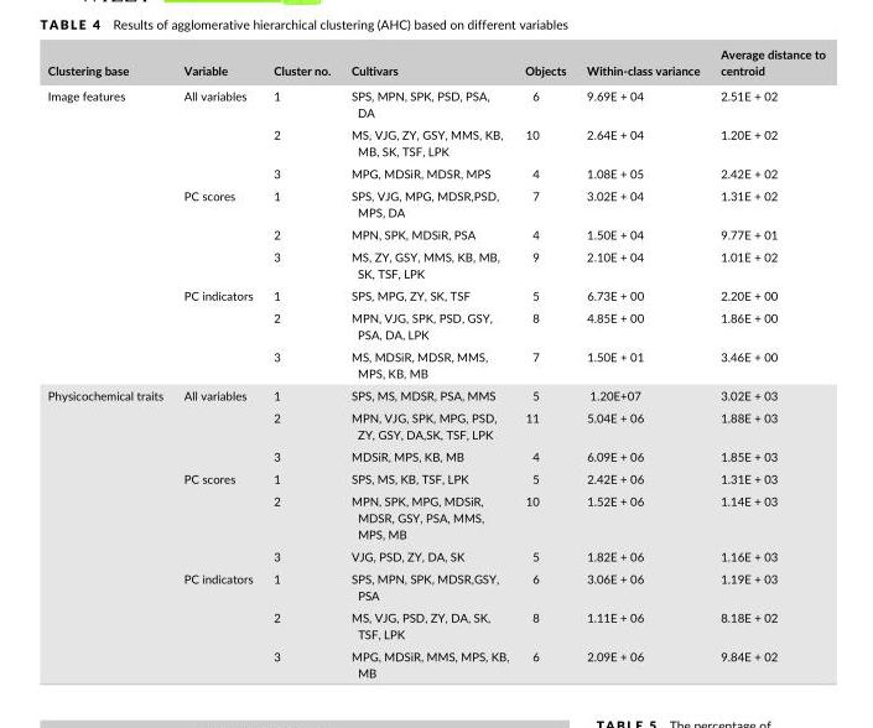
<table><thead><tr><td>Clustering base</td><td>Variable</td><td>Cluster no.</td><td>Cultivars</td><td>Objects</td><td>Within- class variance</td><td>Average distance to centroid</td></tr></thead><tbody><tr><td rowspan="9">Image features</td><td rowspan="3">All variables</td><td>1</td><td>SPS, MPN, SPK, PSD, PSA, DA</td><td>6</td><td>9.69E + 04</td><td>2.51E + 02</td></tr><tr><td>2</td><td>MS, VJG, ZY, GSY, MMS, KB, MB, SK, TSF, LPK</td><td>10</td><td>2.64E + 04</td><td>1.20E + 02</td></tr><tr><td>3</td><td>MPG, MDSiR, MDSR, MPS</td><td>4</td><td>1.08E + 05</td><td>2.42E + 02</td></tr><tr><td rowspan="3">PC scores</td><td>1</td><td>SPS, VJG, MPG, MDSR,PSD, MPS, DA</td><td>7</td><td>3.02E + 04</td><td>1.31E + 02</td></tr><tr><td>2</td><td>MPN, SPK, MDSiR, PSA</td><td>4</td><td>1.50E + 04</td><td>9.77E + 01</td></tr><tr><td>3</td><td>MS, ZY, GSY, MMS, KB, MB, SK, TSF, LPK</td><td>9</td><td>2.10E + 04</td><td>1.01E + 02</td></tr><tr><td rowspan="3">PC indicators</td><td>1</td><td>SPS, MPG, ZY, SK, TSF</td><td>5</td><td>6.73E + 00</td><td>2.20E + 00</td></tr><tr><td>2</td><td>MPN, VJG, SPK, PSD, GSY, PSA, DA, LPK</td><td>8</td><td>4.85E + 00</td><td>1.86E + 00</td></tr><tr><td>3</td><td>MS, MDSiR, MDSR, MMS, MPS, KB, MB</td><td>7</td><td>1.50E + 01</td><td>3.46E + 00</td></tr><tr><td rowspan="9">Physicochemical traits</td><td rowspan="3">All variables</td><td>1</td><td>SPS, MS, MDSR, PSA, MMS</td><td>5</td><td>1.20E+07</td><td>3.02E + 03</td></tr><tr><td>2</td><td>MPN, VJG, SPK, MPG, PSD, ZY, GSY, DA,SK, TSF, LPK</td><td>11</td><td>5.04E + 06</td><td>1.88E + 03</td></tr><tr><td>3</td><td>MDSiR, MPS, KB, MB</td><td>4</td><td>6.09E + 06</td><td>1.85E + 03</td></tr><tr><td rowspan="3">PC scores</td><td>1</td><td>SPS, MS, KB, TSF, LPK</td><td>5</td><td>2.42E + 06</td><td>1.31E + 03</td></tr><tr><td>2</td><td>MPN, SPK, MPG, MDSiR, MDSR, GSY, PSA, MMS, MPS, MB</td><td>10</td><td>1.52E + 06</td><td>1.14E + 03</td></tr><tr><td>3</td><td>VJG, PSD, ZY, DA, SK</td><td>5</td><td>1.82E + 06</td><td>1.16E + 03</td></tr><tr><td rowspan="3">PC indicators</td><td>1</td><td>SPS, MPN, SPK, MDSR,GSY, PSA</td><td>6</td><td>3.06E + 06</td><td>1.19E + 03</td></tr><tr><td>2</td><td>MS, VJG, PSD, ZY, DA, SK, TSF, LPK</td><td>8</td><td>1.11E + 06</td><td>8.18E + 02</td></tr><tr><td>3</td><td>MPG, MDSiR, MMS, MPS, KB, MB</td><td>6</td><td>2.09E + 06</td><td>9.84E + 02</td></tr></tbody></table>